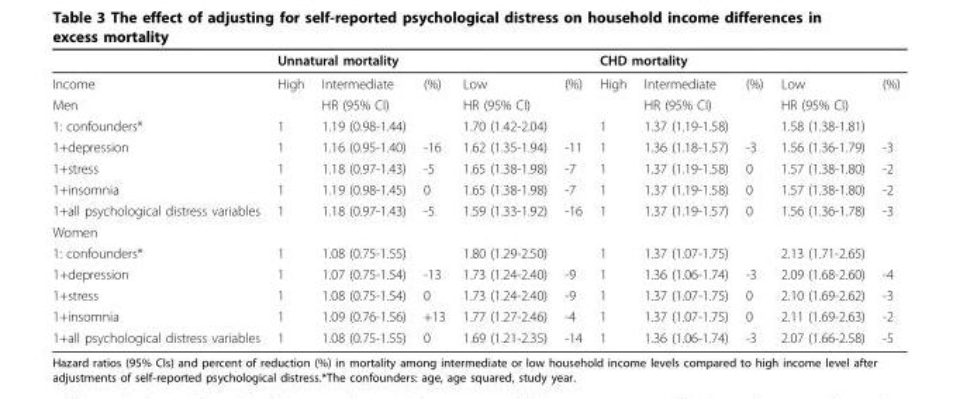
<table><thead><tr><td rowspan="2">Income</td><td colspan="2">Unnatural mortality</td><td rowspan="2">(%)</td><td rowspan="2">Low</td><td rowspan="2">(%)</td><td colspan="2">CHD mortality</td><td rowspan="2">(%)</td><td rowspan="2">Low</td><td rowspan="2">(%)</td></tr><tr><td>High</td><td>Intermediate</td><td>High</td><td>Intermediate</td></tr></thead><tbody><tr><td>Men</td><td></td><td>HR (95% CI)</td><td></td><td>HR (95% CI)</td><td></td><td></td><td>HR (95% CI)</td><td></td><td>HR (95% CI)</td><td></td></tr><tr><td>1: confounders*</td><td>1</td><td>1.19 (0.98-1.44)</td><td></td><td>1.70 (1.42-2.04)</td><td></td><td>1</td><td>1.37 (1.19-1.58)</td><td></td><td>1.58 (1.38-1.81)</td><td></td></tr><tr><td>1+depression</td><td>1</td><td>1.16 (0.95-1.40)</td><td>-16</td><td>1.62 (1.35-1.94)</td><td>-11</td><td>1</td><td>1.36 (1.18-1.57)</td><td>-3</td><td>1.56 (1.36-1.79)</td><td>-3</td></tr><tr><td>1+stress</td><td>1</td><td>1.18 (0.97-1.43)</td><td>-5</td><td>1.65 (1.38-1.98)</td><td>-7</td><td>1</td><td>1.37 (1.19-1.58)</td><td>0</td><td>1.57 (1.38-1.80)</td><td>-2</td></tr><tr><td>1+insomnia</td><td>1</td><td>1.19 (0.98-1.45)</td><td>0</td><td>1.65 (1.38-1.98)</td><td>-7</td><td>1</td><td>1.37 (1.19-1.58)</td><td>0</td><td>1.57 (1.38-1.80)</td><td>-2</td></tr><tr><td>1+all psychological distress variables</td><td>1</td><td>1.18 (0.97-1.43)</td><td>-5</td><td>1.59 (1.33-1.92)</td><td>-16</td><td>1</td><td>1.37 (1.19-1.57)</td><td>0</td><td>1.56 (1.36-1.78)</td><td>-3</td></tr><tr><td colspan="11">Women</td></tr><tr><td>1: confounders*</td><td>1</td><td>1.08 (0.75-1.55)</td><td></td><td>1.80 (1.29-2.50)</td><td></td><td>1</td><td>1.37 (1.07-1.75)</td><td></td><td>2.13 (1.71-2.65)</td><td></td></tr><tr><td>1+depression</td><td>1</td><td>1.07 (0.75-1.54)</td><td>-13</td><td>1.73 (1.24-2.40)</td><td>-9</td><td>1</td><td>1.36 (1.06-1.74)</td><td>-3</td><td>2.09 (1.68-2.60)</td><td>-4</td></tr><tr><td>1+stress</td><td>1</td><td>1.08 (0.75-1.54)</td><td>0</td><td>1.73 (1.24-2.40)</td><td>-9</td><td>1</td><td>1.37 (1.07-1.75)</td><td>0</td><td>2.10 (1.69-2.62)</td><td>-3</td></tr><tr><td>1+insomnia</td><td>1</td><td>1.09 (0.76-1.56)</td><td>+13</td><td>1.77 (1.27-2.46)</td><td>-4</td><td>1</td><td>1.37 (1.07-1.75)</td><td>0</td><td>2.11 (1.69-2.63)</td><td>-2</td></tr><tr><td>1+all psychological distress variables</td><td>1</td><td>1.08 (0.75-1.55)</td><td>0</td><td>1.69 (1.21-2.35)</td><td>-14</td><td>1</td><td>1.36 (1.06-1.74)</td><td>-3</td><td>2.07 (1.66-2.58)</td><td>-5</td></tr></tbody></table>